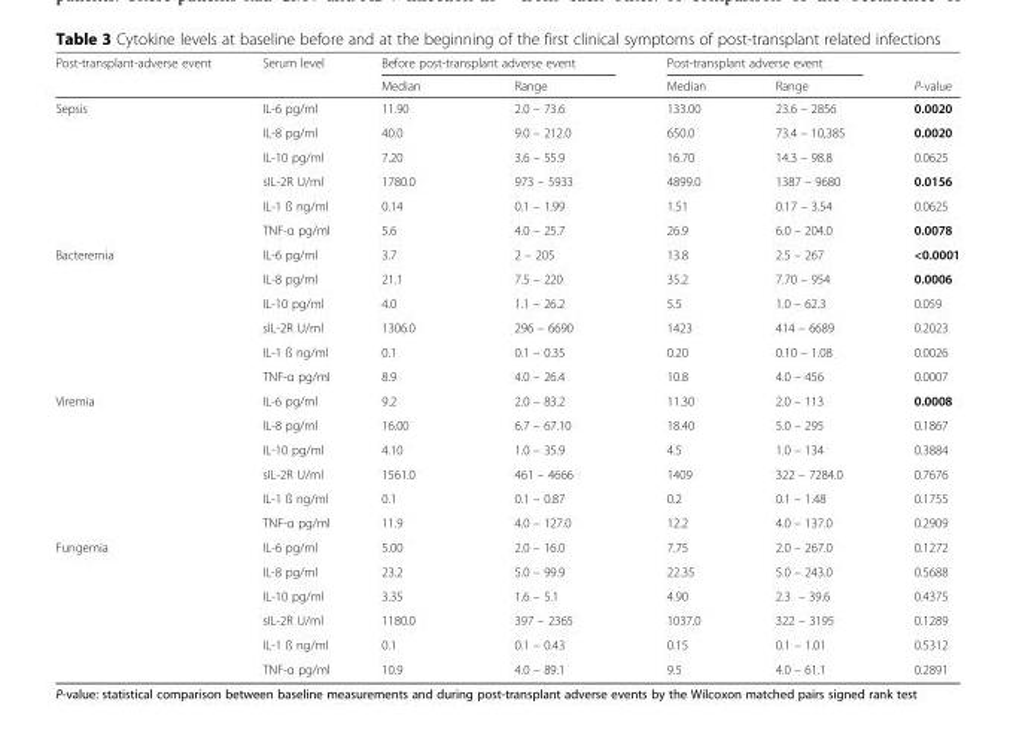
<table><thead><tr><td rowspan="2">Post-transplant-adverse event</td><td rowspan="2">Serum level</td><td colspan="2">Before post-transplant adverse event</td><td colspan="2">Post-transplant adverse event</td><td rowspan="2">P-value</td></tr><tr><td>Median</td><td>Range</td><td>Median</td><td>Range</td></tr></thead><tbody><tr><td rowspan="6">Sepsis</td><td>IL-6 pg/ml</td><td>11.90</td><td>2.0 – 73.6</td><td>133.00</td><td>23.6 – 2856</td><td>0.0020</td></tr><tr><td>IL-8 pg/ml</td><td>40.0</td><td>9.0 – 212.0</td><td>650.0</td><td>73.4 – 10,385</td><td>0.0020</td></tr><tr><td>IL-10 pg/ml</td><td>7.20</td><td>3.6 – 55.9</td><td>16.70</td><td>14.3 – 98.8</td><td>0.0625</td></tr><tr><td>sIL-2R U/ml</td><td>1780.0</td><td>973 – 5933</td><td>4899.0</td><td>1387 – 9680</td><td>0.0156</td></tr><tr><td>IL-1 ß ng/ml</td><td>0.14</td><td>0.1 – 1.99</td><td>1.51</td><td>0.17 – 3.54</td><td>0.0625</td></tr><tr><td>TNF-α pg/ml</td><td>5.6</td><td>4.0 – 25.7</td><td>26.9</td><td>6.0 – 204.0</td><td>0.0078</td></tr><tr><td rowspan="6">Bacteremia</td><td>IL-6 pg/ml</td><td>3.7</td><td>2 – 205</td><td>13.8</td><td>2.5 – 267</td><td>&lt;0.0001</td></tr><tr><td>IL-8 pg/ml</td><td>21.1</td><td>7.5 – 220</td><td>35.2</td><td>7.70 – 954</td><td>0.0006</td></tr><tr><td>IL-10 pg/ml</td><td>4.0</td><td>1.1 – 26.2</td><td>5.5</td><td>1.0 – 62.3</td><td>0.059</td></tr><tr><td>sIL-2R U/ml</td><td>1306.0</td><td>296 – 6690</td><td>1423</td><td>414 – 6689</td><td>0.2023</td></tr><tr><td>IL-1 ß ng/ml</td><td>0.1</td><td>0.1 – 0.35</td><td>0.20</td><td>0.10 – 1.08</td><td>0.0026</td></tr><tr><td>TNF-α pg/ml</td><td>8.9</td><td>4.0 – 26.4</td><td>10.8</td><td>4.0 – 456</td><td>0.0007</td></tr><tr><td rowspan="6">Viremia</td><td>IL-6 pg/ml</td><td>9.2</td><td>2.0 – 83.2</td><td>11.30</td><td>2.0 – 113</td><td>0.0008</td></tr><tr><td>IL-8 pg/ml</td><td>16.00</td><td>6.7 – 67.10</td><td>18.40</td><td>5.0 – 295</td><td>0.1867</td></tr><tr><td>IL-10 pg/ml</td><td>4.10</td><td>1.0 – 35.9</td><td>4.5</td><td>1.0 – 134</td><td>0.3884</td></tr><tr><td>sIL-2R U/ml</td><td>1561.0</td><td>461 – 4666</td><td>1409</td><td>322 – 7284.0</td><td>0.7676</td></tr><tr><td>IL-1 ß ng/ml</td><td>0.1</td><td>0.1 – 0.87</td><td>0.2</td><td>0.1 – 1.48</td><td>0.1755</td></tr><tr><td>TNF-α pg/ml</td><td>11.9</td><td>4.0 – 127.0</td><td>12.2</td><td>4.0 – 137.0</td><td>0.2909</td></tr><tr><td rowspan="6">Fungemia</td><td>IL-6 pg/ml</td><td>5.00</td><td>2.0 – 16.0</td><td>7.75</td><td>2.0 – 267.0</td><td>0.1272</td></tr><tr><td>IL-8 pg/ml</td><td>23.2</td><td>5.0 – 99.9</td><td>22.35</td><td>5.0 – 243.0</td><td>0.5688</td></tr><tr><td>IL-10 pg/ml</td><td>3.35</td><td>1.6 – 5.1</td><td>4.90</td><td>2.3 – 39.6</td><td>0.4375</td></tr><tr><td>sIL-2R U/ml</td><td>1180.0</td><td>397 – 2365</td><td>1037.0</td><td>322 – 3195</td><td>0.1289</td></tr><tr><td>IL-1 ß ng/ml</td><td>0.1</td><td>0.1 – 0.43</td><td>0.15</td><td>0.1 – 1.01</td><td>0.5312</td></tr><tr><td>TNF-α pg/ml</td><td>10.9</td><td>4.0 – 89.1</td><td>9.5</td><td>4.0 – 61.1</td><td>0.2891</td></tr></tbody></table>